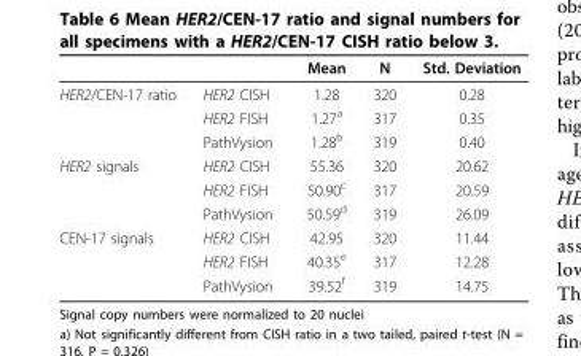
<table><thead><tr><td></td><td></td><td>Mean</td><td>N</td><td>Std. Deviation</td></tr></thead><tbody><tr><td rowspan="3">HER2/CEN-17 ratio</td><td>HER2 CISH</td><td>1.28</td><td>320</td><td>0.28</td></tr><tr><td>HER2 FISH</td><td>1.27<sup>a</sup></td><td>317</td><td>0.35</td></tr><tr><td>PathVysion</td><td>1.28<sup>b</sup></td><td>319</td><td>0.40</td></tr><tr><td rowspan="3">HER2 signals</td><td>HER2 CISH</td><td>55.36</td><td>320</td><td>20.62</td></tr><tr><td>HER2 FISH</td><td>50.90<sup>c</sup></td><td>317</td><td>20.59</td></tr><tr><td>PathVysion</td><td>50.59<sup>d</sup></td><td>319</td><td>26.09</td></tr><tr><td rowspan="3">CEN-17 signals</td><td>HER2 CISH</td><td>42.95</td><td>320</td><td>11.44</td></tr><tr><td>HER2 FISH</td><td>40.35<sup>e</sup></td><td>317</td><td>12.28</td></tr><tr><td>PathVysion</td><td>39.52<sup>f</sup></td><td>319</td><td>14.75</td></tr></tbody></table>